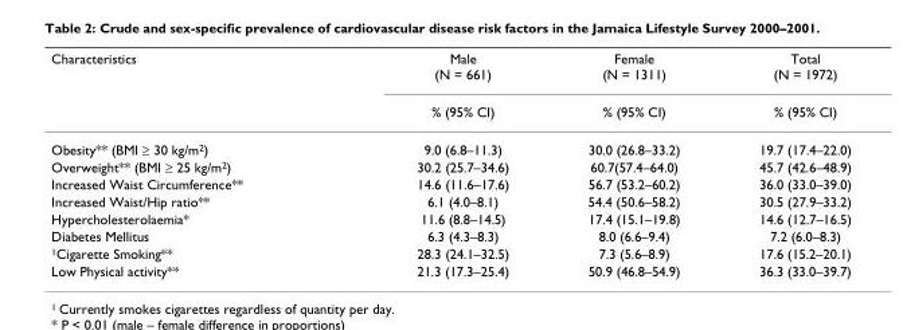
<table><thead><tr><td rowspan="2">Characteristics</td><td rowspan="2">Male (N = 661) % (95% CI)</td><td rowspan="2">Female (N = 1311) % (95% CI)</td><td rowspan="2">Total (N = 1972) % (95% CI)</td></tr><tr></tr></thead><tbody><tr><td>Obesity** (BMI ≥ 30 kg/m<sup>2</sup>)</td><td>9.0 (6.8–11.3)</td><td>30.0 (26.8–33.2)</td><td>19.7 (17.4–22.0)</td></tr><tr><td>Overweight** (BMI ≥ 25 kg/m<sup>2</sup>)</td><td>30.2 (25.7–34.6)</td><td>60.7(57.4–64.0)</td><td>45.7 (42.6–48.9)</td></tr><tr><td>Increased Waist Circumference**</td><td>14.6 (11.6–17.6)</td><td>56.7 (53.2–60.2)</td><td>36.0 (33.0–39.0)</td></tr><tr><td>Increased Waist/Hip ratio**</td><td>6.1 (4.0–8.1)</td><td>54.4 (50.6–58.2)</td><td>30.5 (27.9–33.2)</td></tr><tr><td>Hypercholesterolaemia*</td><td>11.6 (8.8–14.5)</td><td>17.4 (15.1–19.8)</td><td>14.6 (12.7–16.5)</td></tr><tr><td>Diabetes Mellitus</td><td>6.3 (4.3–8.3)</td><td>8.0 (6.6–9.4)</td><td>7.2 (6.0–8.3)</td></tr><tr><td><sup>1</sup>Cigarette Smoking**</td><td>28.3 (24.1–32.5)</td><td>7.3 (5.6–8.9)</td><td>17.6 (15.2–20.1)</td></tr><tr><td>Low Physical activity**</td><td>21.3 (17.3–25.4)</td><td>50.9 (46.8–54.9)</td><td>36.3 (33.0–39.7)</td></tr></tbody></table>